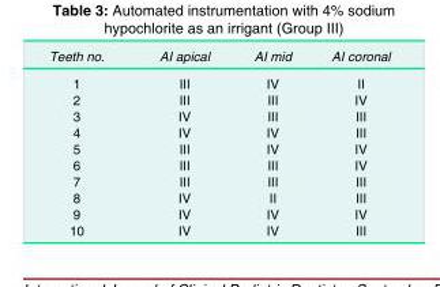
<table><tbody><tr><td>Teeth no.</td><td>AI apical</td><td>AI mid</td><td>AI coronal</td></tr><tr><td>1</td><td>III</td><td>IV</td><td>II</td></tr><tr><td>2</td><td>III</td><td>III</td><td>IV</td></tr><tr><td>3</td><td>IV</td><td>III</td><td>III</td></tr><tr><td>4</td><td>IV</td><td>IV</td><td>III</td></tr><tr><td>5</td><td>III</td><td>IV</td><td>IV</td></tr><tr><td>6</td><td>III</td><td>III</td><td>IV</td></tr><tr><td>7</td><td>III</td><td>III</td><td>III</td></tr><tr><td>8</td><td>IV</td><td>II</td><td>III</td></tr><tr><td>9</td><td>IV</td><td>IV</td><td>IV</td></tr><tr><td>10</td><td>IV</td><td>IV</td><td>III</td></tr></tbody></table>